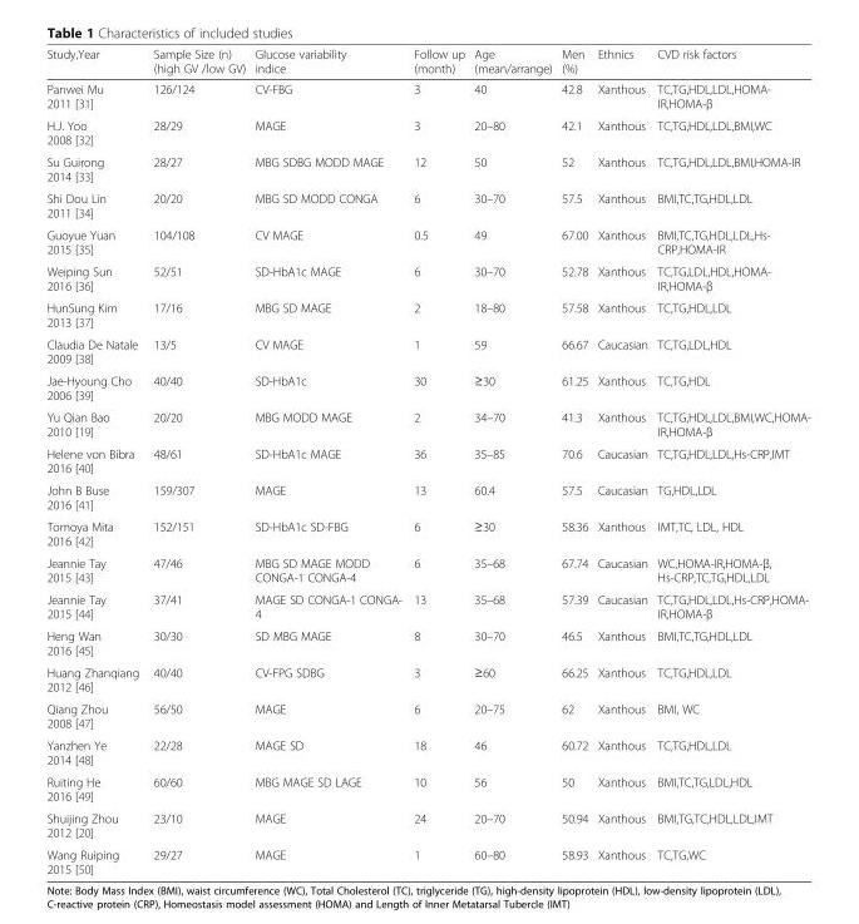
<table><thead><tr><td>Study,Year</td><td>Sample Size (n) (high GV /low GV)</td><td>Glucose variability indice</td><td>Follow up (month)</td><td>Age (mean/arrange)</td><td>Men (%)</td><td>Ethnics</td><td>CVD risk factors</td></tr></thead><tbody><tr><td>Panwei Mu 2011 [31]</td><td>126/124</td><td>CV-FBG</td><td>3</td><td>40</td><td>42.8</td><td>Xanthous</td><td>TC,TG,HDL,LDL,HOMA- IR,HOMA-β</td></tr><tr><td>H.J. Yoo 2008 [32]</td><td>28/29</td><td>MAGE</td><td>3</td><td>20–80</td><td>42.1</td><td>Xanthous</td><td>TC,TG,HDL,LDL,BMI,WC</td></tr><tr><td>Su Guirong 2014 [33]</td><td>28/27</td><td>MBG SDBG MODD MAGE</td><td>12</td><td>50</td><td>52</td><td>Xanthous</td><td>TC,TG,HDL,LDL,BMI,HOMA-IR</td></tr><tr><td>Shi Dou Lin 2011 [34]</td><td>20/20</td><td>MBG SD MODD CONGA</td><td>6</td><td>30–70</td><td>57.5</td><td>Xanthous</td><td>BMI,TC,TG,HDL,LDL</td></tr><tr><td>Guoyue Yuan 2015 [35]</td><td>104/108</td><td>CV MAGE</td><td>0.5</td><td>49</td><td>67.00</td><td>Xanthous</td><td>BMI,TC,TG,HDL,LDL,Hs- CRP,HOMA-IR</td></tr><tr><td>Weiping Sun 2016 [36]</td><td>52/51</td><td>SD-HbA1c MAGE</td><td>6</td><td>30–70</td><td>52.78</td><td>Xanthous</td><td>TC,TG,LDL,HDL,HOMA- IR,HOMA-β</td></tr><tr><td>HunSung Kim 2013 [37]</td><td>17/16</td><td>MBG SD MAGE</td><td>2</td><td>18–80</td><td>57.58</td><td>Xanthous</td><td>TC,TG,HDL,LDL</td></tr><tr><td>Claudia De Natale 2009 [38]</td><td>13/5</td><td>CV MAGE</td><td>1</td><td>59</td><td>66.67</td><td>Caucasian</td><td>TC,TG,LDL,HDL</td></tr><tr><td>Jae-Hyoung Cho 2006 [39]</td><td>40/40</td><td>SD-HbA1c</td><td>30</td><td>≥30</td><td>61.25</td><td>Xanthous</td><td>TC,TG,HDL</td></tr><tr><td>Yu Qian Bao 2010 [19]</td><td>20/20</td><td>MBG MODD MAGE</td><td>2</td><td>34–70</td><td>41.3</td><td>Xanthous</td><td>TC,TG,HDL,LDL,BMI,WC,HOMA- IR,HOMA-β</td></tr><tr><td>Helene von Bibra 2016 [40]</td><td>48/61</td><td>SD-HbA1c MAGE</td><td>36</td><td>35–85</td><td>70.6</td><td>Caucasian</td><td>TC,TG,HDL,LDL,Hs-CRP,IMT</td></tr><tr><td>John B Buse 2016 [41]</td><td>159/307</td><td>MAGE</td><td>13</td><td>60.4</td><td>57.5</td><td>Caucasian</td><td>TG,HDL,LDL</td></tr><tr><td>Tomoya Mita 2016 [42]</td><td>152/151</td><td>SD-HbA1c SD-FBG</td><td>6</td><td>≥30</td><td>58.36</td><td>Xanthous</td><td>IMT,TC, LDL, HDL</td></tr><tr><td>Jeannie Tay 2015 [43]</td><td>47/46</td><td>MBG SD MAGE MODD CONGA-1 CONGA-4</td><td>6</td><td>35–68</td><td>67.74</td><td>Caucasian</td><td>WC,HOMA-IR,HOMA-β, Hs-CRP,TC,TG,HDL,LDL</td></tr><tr><td>Jeannie Tay 2015 [44]</td><td>37/41</td><td>MAGE SD CONGA-1 CONGA- 4</td><td>13</td><td>35–68</td><td>57.39</td><td>Caucasian</td><td>TC,TG,HDL,LDL,Hs-CRP,HOMA- IR,HOMA-β</td></tr><tr><td>Heng Wan 2016 [45]</td><td>30/30</td><td>SD MBG MAGE</td><td>8</td><td>30–70</td><td>46.5</td><td>Xanthous</td><td>BMI,TC,TG,HDL,LDL</td></tr><tr><td>Huang Zhanqiang 2012 [46]</td><td>40/40</td><td>CV-FPG SDBG</td><td>3</td><td>≥60</td><td>66.25</td><td>Xanthous</td><td>TC,TG,HDL,LDL</td></tr><tr><td>Qiang Zhou 2008 [47]</td><td>56/50</td><td>MAGE</td><td>6</td><td>20–75</td><td>62</td><td>Xanthous</td><td>BMI, WC</td></tr><tr><td>Yanzhen Ye 2014 [48]</td><td>22/28</td><td>MAGE SD</td><td>18</td><td>46</td><td>60.72</td><td>Xanthous</td><td>TC,TG,HDL,LDL</td></tr><tr><td>Ruiting He 2016 [49]</td><td>60/60</td><td>MBG MAGE SD LAGE</td><td>10</td><td>56</td><td>50</td><td>Xanthous</td><td>BMI,TC,TG,LDL,HDL</td></tr><tr><td>Shuijing Zhou 2012 [20]</td><td>23/10</td><td>MAGE</td><td>24</td><td>20–70</td><td>50.94</td><td>Xanthous</td><td>BMI,TG,TC,HDL,LDL,IMT</td></tr><tr><td>Wang Ruiping 2015 [50]</td><td>29/27</td><td>MAGE</td><td>1</td><td>60–80</td><td>58.93</td><td>Xanthous</td><td>TC,TG,WC</td></tr></tbody></table>